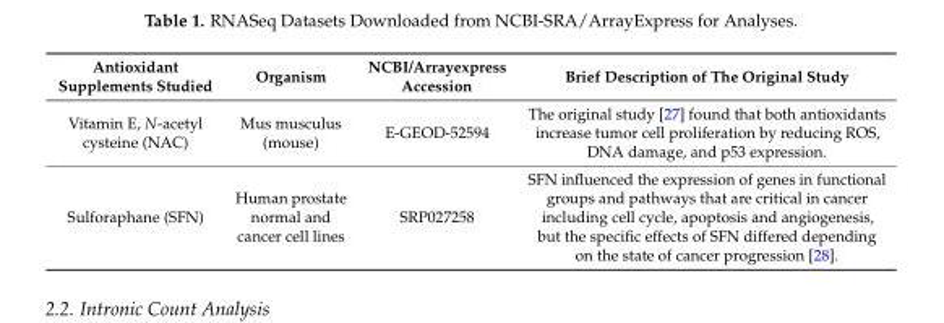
<table><thead><tr><td>Antioxidant Supplements Studied</td><td>Organism</td><td>NCBI/Arrayexpress Accession</td><td>Brief Description of The Original Study</td></tr></thead><tbody><tr><td>Vitamin E, N-acetyl cysteine (NAC)</td><td>Mus musculus (mouse)</td><td>E-GEOD-52594</td><td>The original study [27] found that both antioxidants increase tumor cell proliferation by reducing ROS, DNA damage, and p53 expression.</td></tr><tr><td>Sulforaphane (SFN)</td><td>Human prostate normal and cancer cell lines</td><td>SRP027258</td><td>SFN influenced the expression of genes in functional groups and pathways that are critical in cancer including cell cycle, apoptosis and angiogenesis, but the specific effects of SFN differed depending on the state of cancer progression [28].</td></tr></tbody></table>